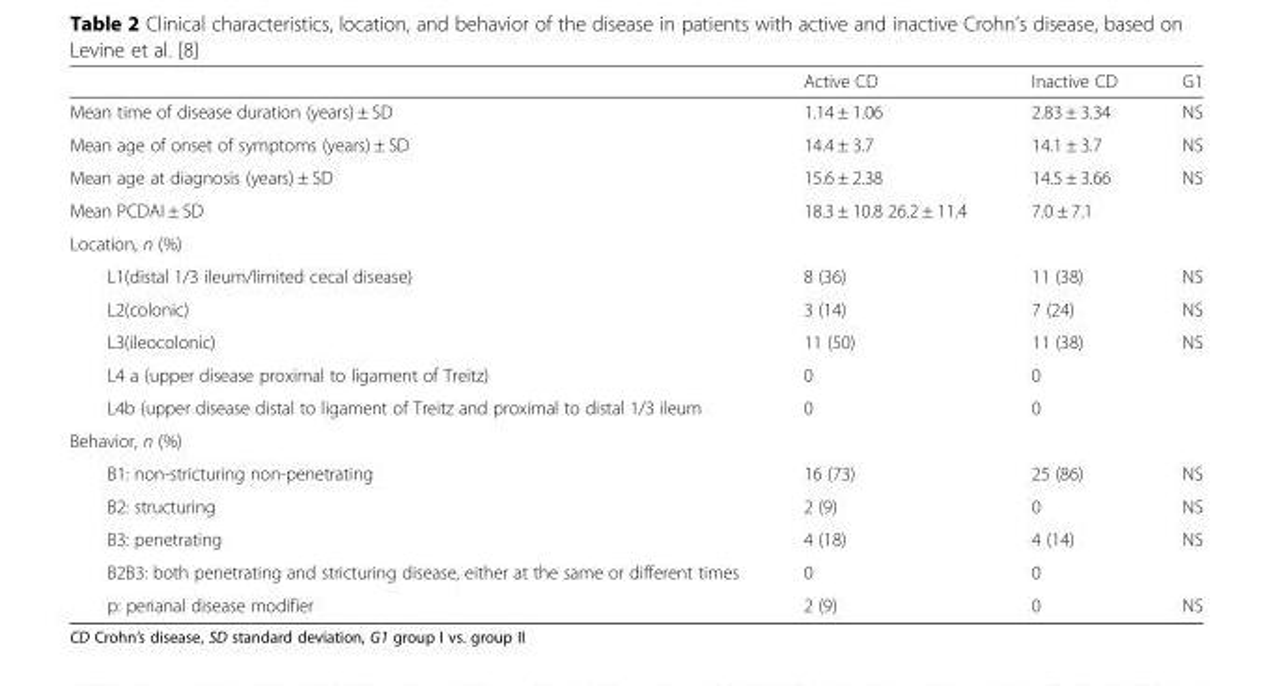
<table><thead><tr><td></td><td>Active CD</td><td>Inactive CD</td><td>G1</td></tr></thead><tbody><tr><td>Mean time of disease duration (years) ± SD</td><td>1.14 ± 1.06</td><td>2.83 ± 3.34</td><td>NS</td></tr><tr><td>Mean age of onset of symptoms (years) ± SD</td><td>14.4 ± 3.7</td><td>14.1 ± 3.7</td><td>NS</td></tr><tr><td>Mean age at diagnosis (years) ± SD</td><td>15.6 ± 2.38</td><td>14.5 ± 3.66</td><td>NS</td></tr><tr><td>Mean PCDAI ± SD</td><td>18.3 ± 10.8 26.2 ± 11.4</td><td>7.0 ± 7.1</td><td></td></tr><tr><td colspan="4">Location, n (%)</td></tr><tr><td>L1(distal 1/3 ileum/limited cecal disease)</td><td>8 (36)</td><td>11 (38)</td><td>NS</td></tr><tr><td>L2(colonic)</td><td>3 (14)</td><td>7 (24)</td><td>NS</td></tr><tr><td>L3(ileocolonic)</td><td>11 (50)</td><td>11 (38)</td><td>NS</td></tr><tr><td>L4 a (upper disease proximal to ligament of Treitz)</td><td>0</td><td>0</td><td></td></tr><tr><td>L4b (upper disease distal to ligament of Treitz and proximal to distal 1/3 ileum</td><td>0</td><td>0</td><td></td></tr><tr><td colspan="4">Behavior, n (%)</td></tr><tr><td>B1: non-stricturing non-penetrating</td><td>16 (73)</td><td>25 (86)</td><td>NS</td></tr><tr><td>B2: structuring</td><td>2 (9)</td><td>0</td><td>NS</td></tr><tr><td>B3: penetrating</td><td>4 (18)</td><td>4 (14)</td><td>NS</td></tr><tr><td>B2B3: both penetrating and stricturing disease, either at the same or different times</td><td>0</td><td>0</td><td></td></tr><tr><td>p: perianal disease modifier</td><td>2 (9)</td><td>0</td><td>NS</td></tr></tbody></table>